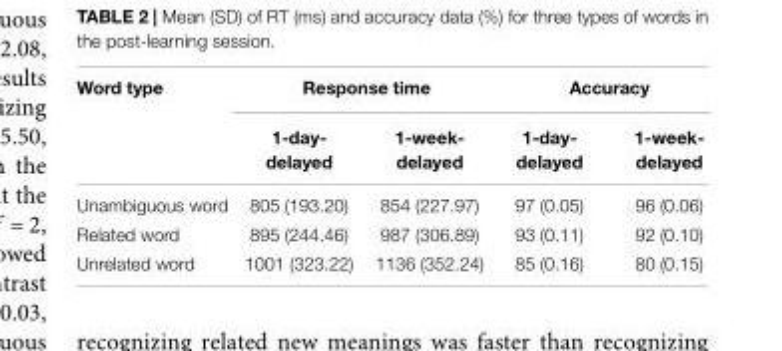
<table><thead><tr><td rowspan="2">Word type</td><td colspan="2">Response time</td><td colspan="2">Accuracy</td></tr><tr><td>1-day- delayed</td><td>1-week- delayed</td><td>1-day- delayed</td><td>1-week- delayed</td></tr></thead><tbody><tr><td>Unambiguous word</td><td>805 (193.20)</td><td>854 (227.97)</td><td>97 (0.05)</td><td>96 (0.06)</td></tr><tr><td>Related word</td><td>895 (244.46)</td><td>987 (306.89)</td><td>93 (0.11)</td><td>92 (0.10)</td></tr><tr><td>Unrelated word</td><td>1001 (323.22)</td><td>1136 (352.24)</td><td>85 (0.16)</td><td>80 (0.15)</td></tr></tbody></table>